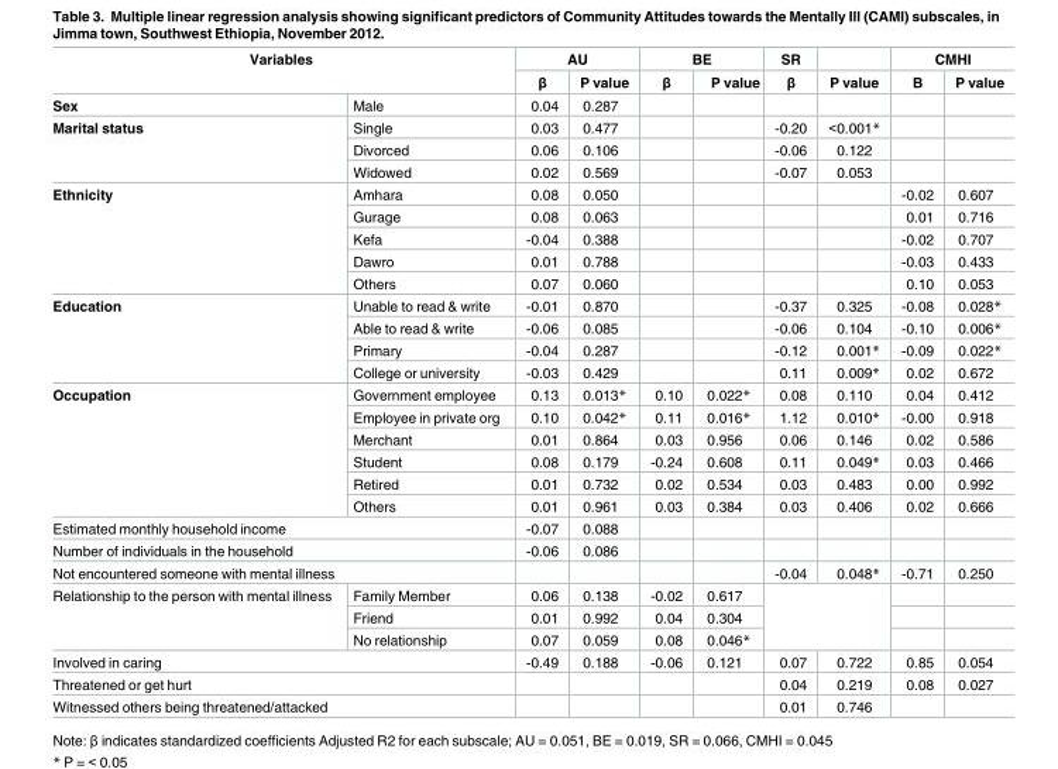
<table><thead><tr><td rowspan="2" colspan="2">Variables</td><td colspan="2">AU</td><td colspan="2">BE</td><td rowspan="3">SR β</td><td rowspan="3">P value</td><td colspan="2">CMHI</td></tr><tr><td rowspan="2">β 0.04</td><td rowspan="2">P value 0.287</td><td rowspan="2">β</td><td rowspan="2">P value</td><td rowspan="2">Β</td><td rowspan="2">P value</td></tr><tr><td>Sex</td><td>Male</td></tr></thead><tbody><tr><td rowspan="3">Marital status</td><td>Single</td><td>0.03</td><td>0.477</td><td></td><td></td><td>-0.20</td><td>&lt;0.001*</td><td></td><td></td></tr><tr><td>Divorced</td><td>0.06</td><td>0.106</td><td></td><td></td><td>-0.06</td><td>0.122</td><td></td><td></td></tr><tr><td>Widowed</td><td>0.02</td><td>0.569</td><td></td><td></td><td>-0.07</td><td>0.053</td><td></td><td></td></tr><tr><td rowspan="5">Ethnicity</td><td>Amhara</td><td>0.08</td><td>0.050</td><td></td><td></td><td></td><td></td><td>-0.02</td><td>0.607</td></tr><tr><td>Gurage</td><td>0.08</td><td>0.063</td><td></td><td></td><td></td><td></td><td>0.01</td><td>0.716</td></tr><tr><td>Kefa</td><td>-0.04</td><td>0.388</td><td></td><td></td><td></td><td></td><td>-0.02</td><td>0.707</td></tr><tr><td>Dawro</td><td>0.01</td><td>0.788</td><td></td><td></td><td></td><td></td><td>-0.03</td><td>0.433</td></tr><tr><td>Others</td><td>0.07</td><td>0.060</td><td></td><td></td><td></td><td></td><td>0.10</td><td>0.053</td></tr><tr><td rowspan="4">Education</td><td>Unable to read &amp; write</td><td>-0.01</td><td>0.870</td><td></td><td></td><td>-0.37</td><td>0.325</td><td>-0.08</td><td>0.028*</td></tr><tr><td>Able to read &amp; write</td><td>-0.06</td><td>0.085</td><td></td><td></td><td>-0.06</td><td>0.104</td><td>-0.10</td><td>0.006*</td></tr><tr><td>Primary</td><td>-0.04</td><td>0.287</td><td></td><td></td><td>-0.12</td><td>0.001*</td><td>-0.09</td><td>0.022*</td></tr><tr><td>College or university</td><td>-0.03</td><td>0.429</td><td></td><td></td><td>0.11</td><td>0.009*</td><td>0.02</td><td>0.672</td></tr><tr><td rowspan="6">Occupation</td><td>Government employee</td><td>0.13</td><td>0.013*</td><td>0.10</td><td>0.022*</td><td>0.08</td><td>0.110</td><td>0.04</td><td>0.412</td></tr><tr><td>Employee in private org</td><td>0.10</td><td>0.042*</td><td>0.11</td><td>0.016*</td><td>1.12</td><td>0.010*</td><td>-0.00</td><td>0.918</td></tr><tr><td>Merchant</td><td>0.01</td><td>0.864</td><td>0.03</td><td>0.956</td><td>0.06</td><td>0.146</td><td>0.02</td><td>0.586</td></tr><tr><td>Student</td><td>0.08</td><td>0.179</td><td>-0.24</td><td>0.608</td><td>0.11</td><td>0.049*</td><td>0.03</td><td>0.466</td></tr><tr><td>Retired</td><td>0.01</td><td>0.732</td><td>0.02</td><td>0.534</td><td>0.03</td><td>0.483</td><td>0.00</td><td>0.992</td></tr><tr><td>Others</td><td>0.01</td><td>0.961</td><td>0.03</td><td>0.384</td><td>0.03</td><td>0.406</td><td>0.02</td><td>0.666</td></tr><tr><td colspan="2">Estimated monthly household income</td><td>-0.07</td><td>0.088</td><td></td><td></td><td></td><td></td><td></td><td></td></tr><tr><td colspan="2">Number of individuals in the household</td><td>-0.06</td><td>0.086</td><td></td><td></td><td></td><td></td><td></td><td></td></tr><tr><td colspan="2">Not encountered someone with mental illness</td><td></td><td></td><td></td><td></td><td>-0.04</td><td>0.048*</td><td>-0.71</td><td>0.250</td></tr><tr><td rowspan="3">Relationship to the person with mental illness</td><td>Family Member</td><td>0.06</td><td>0.138</td><td>-0.02</td><td>0.617</td><td rowspan="3" colspan="2"></td><td></td><td></td></tr><tr><td>Friend</td><td>0.01</td><td>0.992</td><td>0.04</td><td>0.304</td><td></td><td></td></tr><tr><td>No relationship</td><td>0.07</td><td>0.059</td><td>0.08</td><td>0.046*</td><td></td><td></td></tr><tr><td colspan="2">Involved in caring</td><td>-0.49</td><td>0.188</td><td>-0.06</td><td>0.121</td><td>0.07</td><td>0.722</td><td>0.85</td><td>0.054</td></tr><tr><td colspan="2">Threatened or get hurt</td><td></td><td></td><td></td><td></td><td>0.04</td><td>0.219</td><td>0.08</td><td>0.027</td></tr><tr><td colspan="2">Witnessed others being threatened/attacked</td><td></td><td></td><td></td><td></td><td>0.01</td><td>0.746</td><td></td><td></td></tr></tbody></table>